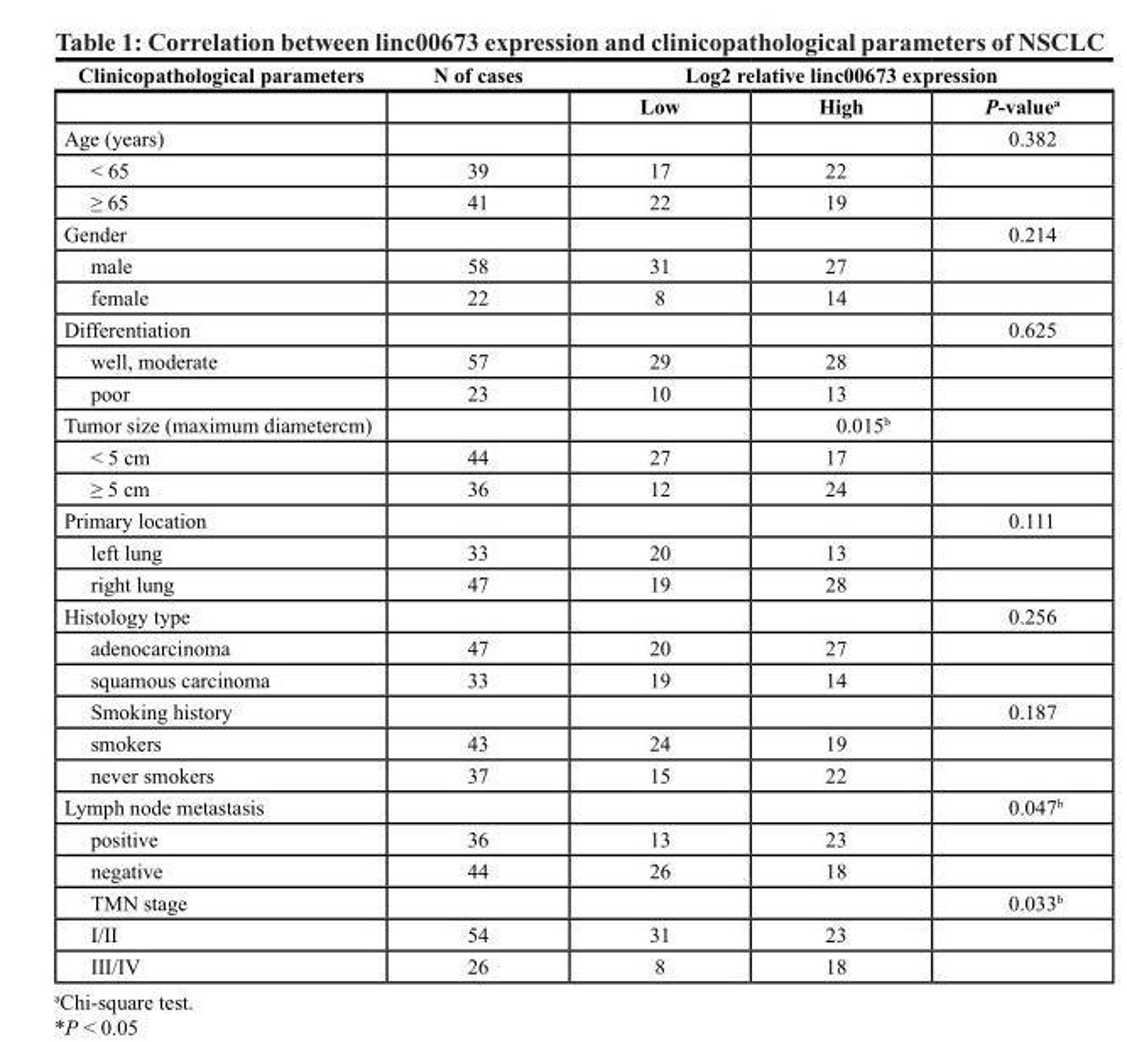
<table><thead><tr><td rowspan="2">Clinicopathological parameters</td><td rowspan="2">N of cases</td><td colspan="3">Log2 relative linc00673 expression</td></tr><tr><td>Low</td><td>High</td><td>P-value<sup>a</sup></td></tr></thead><tbody><tr><td>Age (years)</td><td></td><td></td><td></td><td>0.382</td></tr><tr><td>&lt; 65</td><td>39</td><td>17</td><td>22</td><td></td></tr><tr><td>≥ 65</td><td>41</td><td>22</td><td>19</td><td></td></tr><tr><td>Gender</td><td></td><td></td><td></td><td>0.214</td></tr><tr><td>male</td><td>58</td><td>31</td><td>27</td><td></td></tr><tr><td>female</td><td>22</td><td>8</td><td>14</td><td></td></tr><tr><td>Differentiation</td><td></td><td></td><td></td><td>0.625</td></tr><tr><td>well, moderate</td><td>57</td><td>29</td><td>28</td><td></td></tr><tr><td>poor</td><td>23</td><td>10</td><td>13</td><td></td></tr><tr><td>Tumor size (maximum diametercm)</td><td></td><td></td><td>0.015<sup>b</sup></td><td></td></tr><tr><td>&lt; 5 cm</td><td>44</td><td>27</td><td>17</td><td></td></tr><tr><td>≥ 5 cm</td><td>36</td><td>12</td><td>24</td><td></td></tr><tr><td>Primary location</td><td></td><td></td><td></td><td>0.111</td></tr><tr><td>left lung</td><td>33</td><td>20</td><td>13</td><td></td></tr><tr><td>right lung</td><td>47</td><td>19</td><td>28</td><td></td></tr><tr><td>Histology type</td><td></td><td></td><td></td><td>0.256</td></tr><tr><td>adenocarcinoma</td><td>47</td><td>20</td><td>27</td><td></td></tr><tr><td>squamous carcinoma</td><td>33</td><td>19</td><td>14</td><td></td></tr><tr><td>Smoking history</td><td></td><td></td><td></td><td>0.187</td></tr><tr><td>smokers</td><td>43</td><td>24</td><td>19</td><td></td></tr><tr><td>never smokers</td><td>37</td><td>15</td><td>22</td><td></td></tr><tr><td>Lymph node metastasis</td><td></td><td></td><td></td><td>0.047<sup>b</sup></td></tr><tr><td>positive</td><td>36</td><td>13</td><td>23</td><td></td></tr><tr><td>negative</td><td>44</td><td>26</td><td>18</td><td></td></tr><tr><td>TMN stage</td><td></td><td></td><td></td><td>0.033<sup>b</sup></td></tr><tr><td>I/II</td><td>54</td><td>31</td><td>23</td><td></td></tr><tr><td>III/IV</td><td>26</td><td>8</td><td>18</td><td></td></tr></tbody></table>